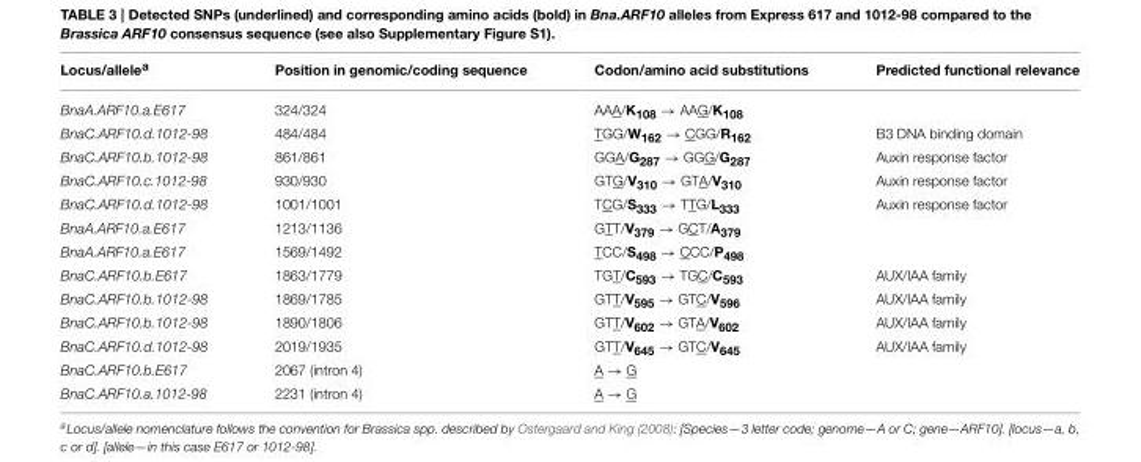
<table><thead><tr><td>Locus/allele<sup>a</sup></td><td>Position in genomic/coding sequence</td><td>Codon/amino acid substitutions</td><td>Predicted functional relevance</td></tr></thead><tbody><tr><td>BnaA.ARF10.a.E617</td><td>324/324</td><td>AAA/K<sub>108</sub> → AAG/K<sub>108</sub></td><td></td></tr><tr><td>BnaC.ARF10.d.1012-98</td><td>484/484</td><td>TGG/W<sub>162</sub> → CGG/R<sub>162</sub></td><td>B3 DNA binding domain</td></tr><tr><td>BnaC.ARF10.b.1012-98</td><td>861/861</td><td>GGA/G<sub>287</sub> → GGG/G<sub>287</sub></td><td>Auxin response factor</td></tr><tr><td>BnaC.ARF10.c.1012-98</td><td>930/930</td><td>GTG/V<sub>310</sub> → GTA/V<sub>310</sub></td><td>Auxin response factor</td></tr><tr><td>BnaC.ARF10.d.1012-98</td><td>1001/1001</td><td>TCG/S<sub>333</sub> → TTG/L<sub>333</sub></td><td>Auxin response factor</td></tr><tr><td>BnaA.ARF10.a.E617</td><td>1213/1136</td><td>GTT/V<sub>379</sub> → GCT/A<sub>379</sub></td><td></td></tr><tr><td>BnaA.ARF10.a.E617</td><td>1569/1492</td><td>TCC/S<sub>498</sub> → CCC/P<sub>498</sub></td><td></td></tr><tr><td>BnaC.ARF10.b.E617</td><td>1863/1779</td><td>TGT/C<sub>593</sub> → TGC/C<sub>593</sub></td><td>AUX/IAA family</td></tr><tr><td>BnaC.ARF10.b.1012-98</td><td>1869/1785</td><td>GTT/V<sub>595</sub> → GTC/V<sub>596</sub></td><td>AUX/IAA family</td></tr><tr><td>BnaC.ARF10.b.1012-98</td><td>1890/1806</td><td>GTT/V<sub>602</sub> → GTA/V<sub>602</sub></td><td>AUX/IAA family</td></tr><tr><td>BnaC.ARF10.d.1012-98</td><td>2019/1935</td><td>GTT/V<sub>645</sub> → GTC/V<sub>645</sub></td><td>AUX/IAA family</td></tr><tr><td>BnaC.ARF10.b.E617</td><td>2067 (intron 4)</td><td>A → G</td><td></td></tr><tr><td>BnaC.ARF10.a.1012-98</td><td>2231 (intron 4)</td><td>A → G</td><td></td></tr></tbody></table>